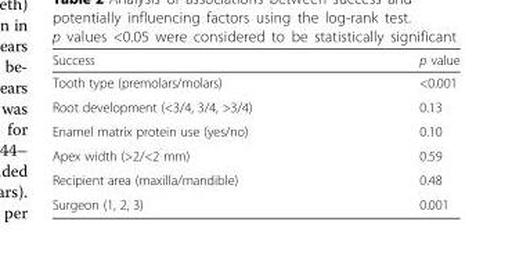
<table><thead><tr><td>Success</td><td>p value</td></tr></thead><tbody><tr><td>Tooth type (premolars/molars)</td><td>&lt;0.001</td></tr><tr><td>Root development (&lt;3/4, 3/4, &gt;3/4)</td><td>0.13</td></tr><tr><td>Enamel matrix protein use (yes/no)</td><td>0.10</td></tr><tr><td>Apex width (&gt;2/&lt;2 mm)</td><td>0.59</td></tr><tr><td>Recipient area (maxilla/mandible)</td><td>0.48</td></tr><tr><td>Surgeon (1, 2, 3)</td><td>0.001</td></tr></tbody></table>